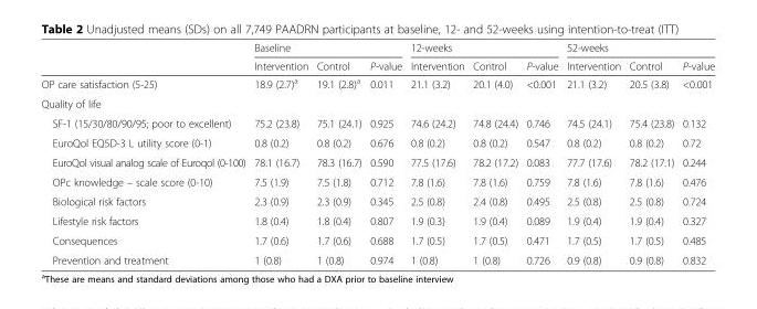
<table><thead><tr><td rowspan="2"></td><td colspan="3">Baseline</td><td colspan="3">12-weeks</td><td colspan="3">52-weeks</td></tr><tr><td>Intervention</td><td>Control</td><td>P-value</td><td>Intervention</td><td>Control</td><td>P-value</td><td>Intervention</td><td>Control</td><td>P-value</td></tr></thead><tbody><tr><td>OP care satisfaction (5-25)</td><td>18.9 (2.7)<sup>a</sup></td><td>19.1 (2.8)<sup>a</sup></td><td>0.011</td><td>21.1 (3.2)</td><td>20.1 (4.0)</td><td>&lt;0.001</td><td>21.1 (3.2)</td><td>20.5 (3.8)</td><td>&lt;0.001</td></tr><tr><td colspan="10">Quality of life</td></tr><tr><td>SF-1 (15/30/80/90/95; poor to excellent)</td><td>75.2 (23.8)</td><td>75.1 (24.1)</td><td>0.925</td><td>74.6 (24.2)</td><td>74.8 (24.4)</td><td>0.746</td><td>74.5 (24.1)</td><td>75.4 (23.8)</td><td>0.132</td></tr><tr><td>EuroQol EQ5D-3 L utility score (0-1)</td><td>0.8 (0.2)</td><td>0.8 (0.2)</td><td>0.676</td><td>0.8 (0.2)</td><td>0.8 (0.2)</td><td>0.547</td><td>0.8 (0.2)</td><td>0.8 (0.2)</td><td>0.72</td></tr><tr><td>EuroQol visual analog scale of Euroqol (0-100)</td><td>78.1 (16.7)</td><td>78.3 (16.7)</td><td>0.590</td><td>77.5 (17.6)</td><td>78.2 (17.2)</td><td>0.083</td><td>77.7 (17.6)</td><td>78.2 (17.1)</td><td>0.244</td></tr><tr><td>OPc knowledge – scale score (0-10)</td><td>7.5 (1.9)</td><td>7.5 (1.8)</td><td>0.712</td><td>7.8 (1.6)</td><td>7.8 (1.6)</td><td>0.759</td><td>7.8 (1.6)</td><td>7.8 (1.6)</td><td>0.476</td></tr><tr><td>Biological risk factors</td><td>2.3 (0.9)</td><td>2.3 (0.9)</td><td>0.345</td><td>2.5 (0.8)</td><td>2.4 (0.8)</td><td>0.495</td><td>2.5 (0.8)</td><td>2.5 (0.8)</td><td>0.724</td></tr><tr><td>Lifestyle risk factors</td><td>1.8 (0.4)</td><td>1.8 (0.4)</td><td>0.807</td><td>1.9 (0.3)</td><td>1.9 (0.4)</td><td>0.089</td><td>1.9 (0.4)</td><td>1.9 (0.4)</td><td>0.327</td></tr><tr><td>Consequences</td><td>1.7 (0.6)</td><td>1.7 (0.6)</td><td>0.688</td><td>1.7 (0.5)</td><td>1.7 (0.5)</td><td>0.471</td><td>1.7 (0.5)</td><td>1.7 (0.5)</td><td>0.485</td></tr><tr><td>Prevention and treatment</td><td>1 (0.8)</td><td>1 (0.8)</td><td>0.974</td><td>1 (0.8)</td><td>1 (0.8)</td><td>0.726</td><td>0.9 (0.8)</td><td>0.9 (0.8)</td><td>0.832</td></tr></tbody></table>